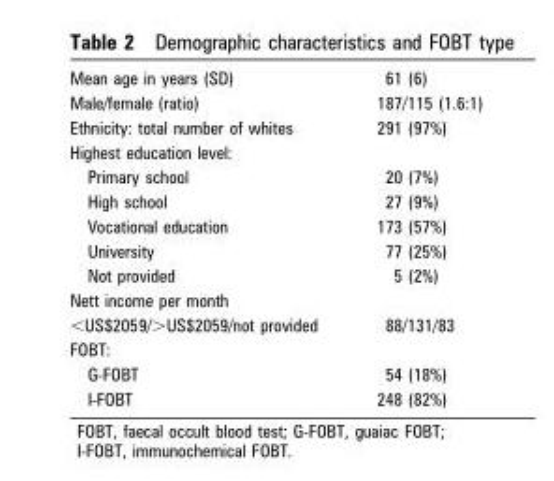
<table><tbody><tr><td>Mean age in years (SD)</td><td>61 (6)</td></tr><tr><td>Male/female (ratio)</td><td>187/115 (1.6:1)</td></tr><tr><td>Ethnicity: total number of whites</td><td>291 (97%)</td></tr><tr><td colspan="2">Highest education level:</td></tr><tr><td>Primary school</td><td>20 (7%)</td></tr><tr><td>High school</td><td>27 (9%)</td></tr><tr><td>Vocational education</td><td>173 (57%)</td></tr><tr><td>University</td><td>77 (25%)</td></tr><tr><td>Not provided</td><td>5 (2%)</td></tr><tr><td colspan="2">Nett income per month</td></tr><tr><td>&lt;US$2059/&gt;US$2059/not provided</td><td>88/131/83</td></tr><tr><td colspan="2">FOBT:</td></tr><tr><td>G-FOBT</td><td>54 (18%)</td></tr><tr><td>I-FOBT</td><td>248 (82%)</td></tr></tbody></table>